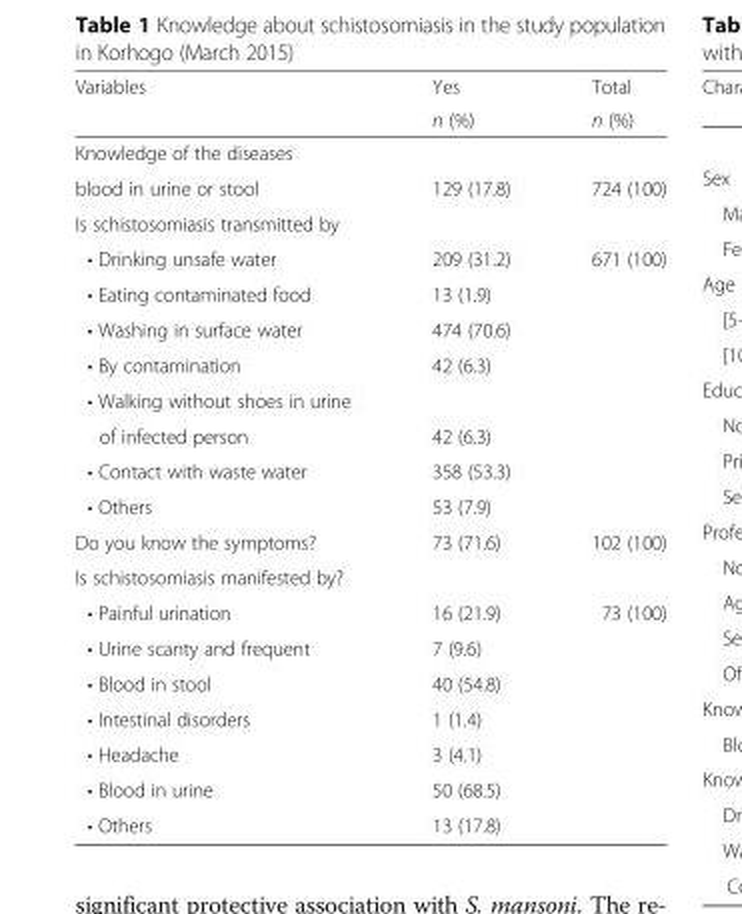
<table><thead><tr><td rowspan="2">Variables</td><td rowspan="2">Yes n (%)</td><td rowspan="2">Total n (%)</td></tr><tr></tr></thead><tbody><tr><td colspan="3">Knowledge of the diseases</td></tr><tr><td>blood in urine or stool</td><td>129 (17.8)</td><td>724 (100)</td></tr><tr><td colspan="3">Is schistosomiasis transmitted by</td></tr><tr><td>• Drinking unsafe water</td><td>209 (31.2)</td><td>671 (100)</td></tr><tr><td>• Eating contaminated food</td><td>13 (1.9)</td><td></td></tr><tr><td>• Washing in surface water</td><td>474 (70.6)</td><td></td></tr><tr><td>• By contamination</td><td>42 (6.3)</td><td></td></tr><tr><td colspan="3">• Walking without shoes in urine</td></tr><tr><td>of infected person</td><td>42 (6.3)</td><td></td></tr><tr><td>• Contact with waste water</td><td>358 (53.3)</td><td></td></tr><tr><td>• Others</td><td>53 (7.9)</td><td></td></tr><tr><td>Do you know the symptoms?</td><td>73 (71.6)</td><td>102 (100)</td></tr><tr><td colspan="3">Is schistosomiasis manifested by?</td></tr><tr><td>• Painful urination</td><td>16 (21.9)</td><td>73 (100)</td></tr><tr><td>• Urine scanty and frequent</td><td>7 (9.6)</td><td></td></tr><tr><td>• Blood in stool</td><td>40 (54.8)</td><td></td></tr><tr><td>• Intestinal disorders</td><td>1 (1.4)</td><td></td></tr><tr><td>• Headache</td><td>3 (4.1)</td><td></td></tr><tr><td>• Blood in urine</td><td>50 (68.5)</td><td></td></tr><tr><td>• Others</td><td>13 (17.8)</td><td></td></tr></tbody></table>